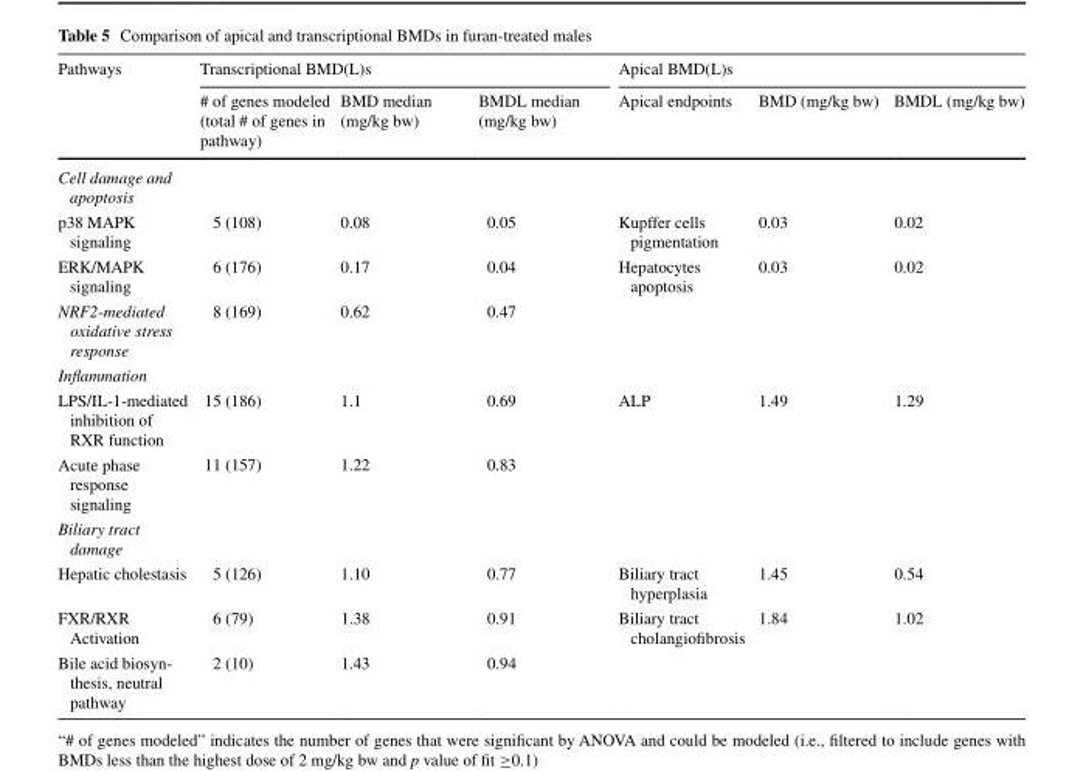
<table><thead><tr><td rowspan="2">Pathways</td><td colspan="3">Transcriptional BMD(L)s</td><td colspan="3">Apical BMD(L)s</td></tr><tr><td># of genes modeled (total # of genes in pathway)</td><td>BMD median (mg/kg bw)</td><td>BMDL median (mg/kg bw)</td><td>Apical endpoints</td><td>BMD (mg/kg bw)</td><td>BMDL (mg/kg bw)</td></tr></thead><tbody><tr><td colspan="7">Cell damage and apoptosis</td></tr><tr><td>p38 MAPK signaling</td><td>5 (108)</td><td>0.08</td><td>0.05</td><td>Kupffer cells pigmentation</td><td>0.03</td><td>0.02</td></tr><tr><td>ERK/MAPK signaling</td><td>6 (176)</td><td>0.17</td><td>0.04</td><td>Hepatocytes apoptosis</td><td>0.03</td><td>0.02</td></tr><tr><td>NRF2-mediated oxidative stress response</td><td>8 (169)</td><td>0.62</td><td>0.47</td><td></td><td></td><td></td></tr><tr><td colspan="7">Inflammation</td></tr><tr><td>LPS/IL-1-mediated inhibition of RXR function</td><td>15 (186)</td><td>1.1</td><td>0.69</td><td>ALP</td><td>1.49</td><td>1.29</td></tr><tr><td>Acute phase response signaling</td><td>11 (157)</td><td>1.22</td><td>0.83</td><td></td><td></td><td></td></tr><tr><td colspan="7">Biliary tract damage</td></tr><tr><td>Hepatic cholestasis</td><td>5 (126)</td><td>1.10</td><td>0.77</td><td>Biliary tract hyperplasia</td><td>1.45</td><td>0.54</td></tr><tr><td>FXR/RXR Activation</td><td>6 (79)</td><td>1.38</td><td>0.91</td><td>Biliary tract cholangiofibrosis</td><td>1.84</td><td>1.02</td></tr><tr><td>Bile acid biosyn- thesis, neutral pathway</td><td>2 (10)</td><td>1.43</td><td>0.94</td><td></td><td></td><td></td></tr></tbody></table>